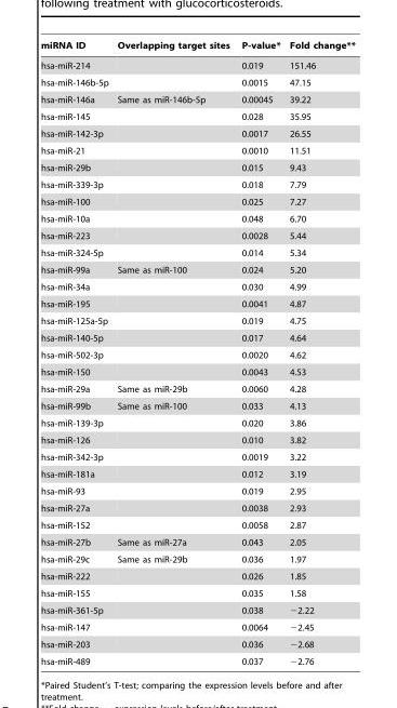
<table><thead><tr><td>miRNA ID</td><td>Overlapping target sites</td><td>P-value*</td><td>Fold change**</td></tr></thead><tbody><tr><td>hsa-miR-214</td><td></td><td>0.019</td><td>151.46</td></tr><tr><td>hsa-miR-146b-5p</td><td></td><td>0.0015</td><td>47.15</td></tr><tr><td>hsa-miR-146a</td><td>Same as miR-146b-5p</td><td>0.00045</td><td>39.22</td></tr><tr><td>hsa-miR-145</td><td></td><td>0.028</td><td>35.95</td></tr><tr><td>hsa-miR-142-3p</td><td></td><td>0.0017</td><td>26.55</td></tr><tr><td>hsa-miR-21</td><td></td><td>0.0010</td><td>11.51</td></tr><tr><td>hsa-miR-29b</td><td></td><td>0.015</td><td>9.43</td></tr><tr><td>hsa-miR-339-3p</td><td></td><td>0.018</td><td>7.79</td></tr><tr><td>hsa-miR-100</td><td></td><td>0.025</td><td>7.27</td></tr><tr><td>hsa-miR-10a</td><td></td><td>0.048</td><td>6.70</td></tr><tr><td>hsa-miR-223</td><td></td><td>0.0028</td><td>5.44</td></tr><tr><td>hsa-miR-324-5p</td><td></td><td>0.014</td><td>5.34</td></tr><tr><td>hsa-miR-99a</td><td>Same as miR-100</td><td>0.024</td><td>5.20</td></tr><tr><td>hsa-miR-34a</td><td></td><td>0.030</td><td>4.99</td></tr><tr><td>hsa-miR-195</td><td></td><td>0.0041</td><td>4.87</td></tr><tr><td>hsa-miR-125a-5p</td><td></td><td>0.019</td><td>4.75</td></tr><tr><td>hsa-miR-140-5p</td><td></td><td>0.017</td><td>4.64</td></tr><tr><td>hsa-miR-502-3p</td><td></td><td>0.0020</td><td>4.62</td></tr><tr><td>hsa-miR-150</td><td></td><td>0.0043</td><td>4.53</td></tr><tr><td>hsa-miR-29a</td><td>Same as miR-29b</td><td>0.0060</td><td>4.28</td></tr><tr><td>hsa-miR-99b</td><td>Same as miR-100</td><td>0.033</td><td>4.13</td></tr><tr><td>hsa-miR-139-3p</td><td></td><td>0.020</td><td>3.86</td></tr><tr><td>hsa-miR-126</td><td></td><td>0.010</td><td>3.82</td></tr><tr><td>hsa-miR-342-3p</td><td></td><td>0.0019</td><td>3.22</td></tr><tr><td>hsa-miR-181a</td><td></td><td>0.012</td><td>3.19</td></tr><tr><td>hsa-miR-93</td><td></td><td>0.019</td><td>2.95</td></tr><tr><td>hsa-miR-27a</td><td></td><td>0.0038</td><td>2.93</td></tr><tr><td>hsa-miR-152</td><td></td><td>0.0058</td><td>2.87</td></tr><tr><td>hsa-miR-27b</td><td>Same as miR-27a</td><td>0.043</td><td>2.05</td></tr><tr><td>hsa-miR-29c</td><td>Same as miR-29b</td><td>0.036</td><td>1.97</td></tr><tr><td>hsa-miR-222</td><td></td><td>0.026</td><td>1.85</td></tr><tr><td>hsa-miR-155</td><td></td><td>0.035</td><td>1.58</td></tr><tr><td>hsa-miR-361-5p</td><td></td><td>0.038</td><td>−2.22</td></tr><tr><td>hsa-miR-147</td><td></td><td>0.0064</td><td>−2.45</td></tr><tr><td>hsa-miR-203</td><td></td><td>0.036</td><td>−2.68</td></tr><tr><td>hsa-miR-489</td><td></td><td>0.037</td><td>−2.76</td></tr></tbody></table>